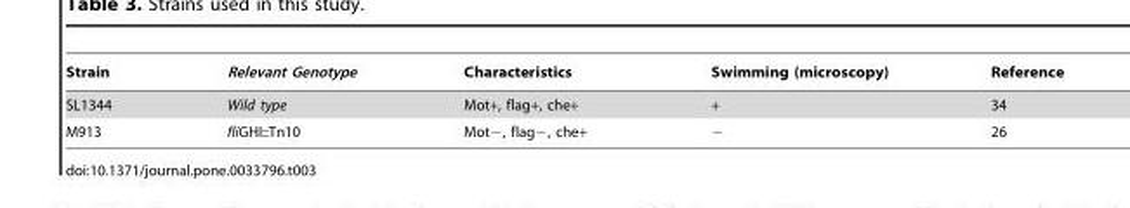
<table><thead><tr><td>Strain</td><td>Relevant Genotype</td><td>Characteristics</td><td>Swimming (microscopy)</td><td>Reference</td></tr></thead><tbody><tr><td>SL1344</td><td>Wild type</td><td>Mot+, flag+, che+</td><td>+</td><td>34</td></tr><tr><td>M913</td><td>fliGHI::Tn10</td><td>Mot−, flag−, che+</td><td>−</td><td>26</td></tr></tbody></table>